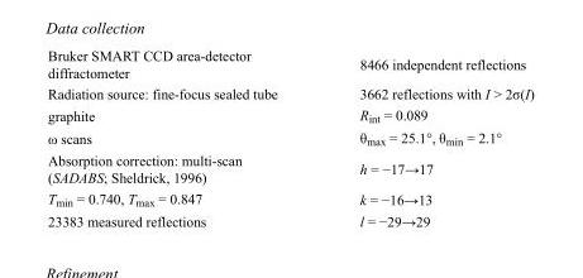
<table><tbody><tr><td>Bruker SMART CCD area-detector diffractometer</td><td>8466 independent reflections</td></tr><tr><td>Radiation source: fine-focus sealed tube</td><td>3662 reflections with I &gt; 2σ(I)</td></tr><tr><td>graphite</td><td>R<sub>int</sub> = 0.089</td></tr><tr><td>ω scans</td><td>θ<sub>max</sub> = 25.1°, θ<sub>min</sub> = 2.1°</td></tr><tr><td>Absorption correction: multi-scan (SADABS; Sheldrick, 1996)</td><td>h = −17→17</td></tr><tr><td>T<sub>min</sub> = 0.740, T<sub>max</sub> = 0.847</td><td>k = −16→13</td></tr><tr><td>23383 measured reflections</td><td>l = −29→29</td></tr></tbody></table>